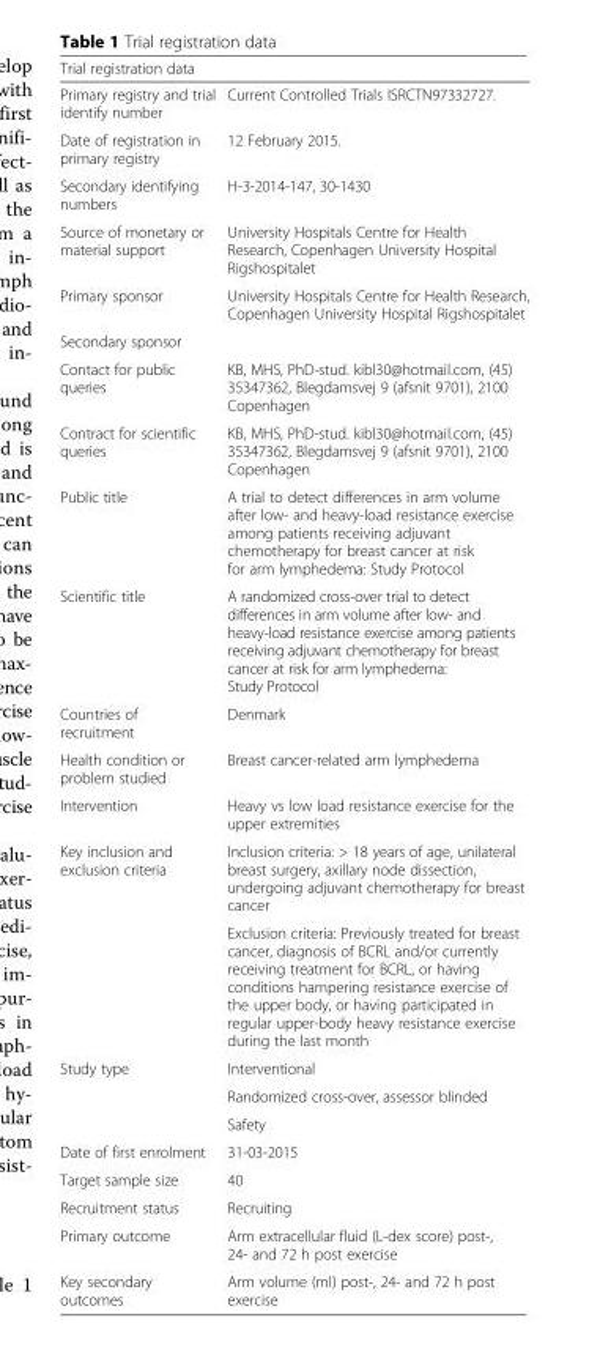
<table><thead><tr><td colspan="2">Trial registration data</td></tr><tr><td>Primary registry and trial identify number</td><td>Current Controlled Trials ISRCTN97332727.</td></tr></thead><tbody><tr><td>Date of registration in primary registry</td><td>12 February 2015.</td></tr><tr><td>Secondary identifying numbers</td><td>H-3-2014-147, 30-1430</td></tr><tr><td>Source of monetary or material support</td><td>University Hospitals Centre for Health Research, Copenhagen University Hospital Rigshospitalet</td></tr><tr><td>Primary sponsor</td><td>University Hospitals Centre for Health Research, Copenhagen University Hospital Rigshospitalet</td></tr><tr><td colspan="2">Secondary sponsor</td></tr><tr><td>Contact for public queries</td><td>KB, MHS, PhD-stud. kibl30@hotmail.com, (45) 35347362, Blegdamsvej 9 (afsnit 9701), 2100 Copenhagen</td></tr><tr><td>Contract for scientific queries</td><td>KB, MHS, PhD-stud. kibl30@hotmail.com, (45) 35347362, Blegdamsvej 9 (afsnit 9701), 2100 Copenhagen</td></tr><tr><td>Public title</td><td>A trial to detect differences in arm volume after low- and heavy-load resistance exercise among patients receiving adjuvant chemotherapy for breast cancer at risk for arm lymphedema: Study Protocol</td></tr><tr><td>Scientific title</td><td>A randomized cross-over trial to detect differences in arm volume after low- and heavy-load resistance exercise among patients receiving adjuvant chemotherapy for breast cancer at risk for arm lymphedema: Study Protocol</td></tr><tr><td>Countries of recruitment</td><td>Denmark</td></tr><tr><td>Health condition or problem studied</td><td>Breast cancer-related arm lymphedema</td></tr><tr><td>Intervention</td><td>Heavy vs low load resistance exercise for the upper extremities</td></tr><tr><td rowspan="2">Key inclusion and exclusion criteria</td><td>Inclusion criteria: &gt; 18 years of age, unilateral breast surgery, axillary node dissection, undergoing adjuvant chemotherapy for breast cancer</td></tr><tr><td>Exclusion criteria: Previously treated for breast cancer, diagnosis of BCRL and/or currently receiving treatment for BCRL, or having conditions hampering resistance exercise of the upper body, or having participated in regular upper-body heavy resistance exercise during the last month</td></tr><tr><td rowspan="3">Study type</td><td>Interventional</td></tr><tr><td>Randomized cross-over, assessor blinded</td></tr><tr><td>Safety</td></tr><tr><td>Date of first enrolment</td><td>31-03-2015</td></tr><tr><td>Target sample size</td><td>40</td></tr><tr><td>Recruitment status</td><td>Recruiting</td></tr><tr><td>Primary outcome</td><td>Arm extracellular fluid (L-dex score) post-, 24- and 72 h post exercise</td></tr><tr><td>Key secondary outcomes</td><td>Arm volume (ml) post-, 24- and 72 h post exercise</td></tr></tbody></table>